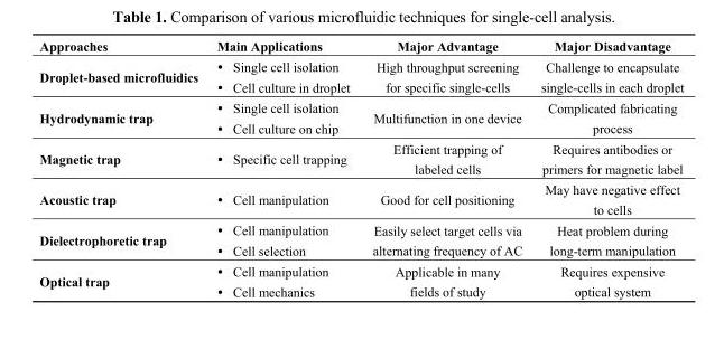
<table><thead><tr><td>Approaches</td><td>Main Applications</td><td>Major Advantage</td><td>Major Disadvantage</td></tr></thead><tbody><tr><td rowspan="2">Droplet-based microfluidics</td><td> Single cell isolation</td><td rowspan="2">High throughput screening for specific single-cells</td><td rowspan="2">Challenge to encapsulate single-cells in each droplet</td></tr><tr><td> Cell culture in droplet</td></tr><tr><td rowspan="2">Hydrodynamic trap</td><td> Single cell isolation</td><td rowspan="2">Multifunction in one device</td><td rowspan="2">Complicated fabricating process</td></tr><tr><td> Cell culture on chip</td></tr><tr><td>Magnetic trap</td><td> Specific cell trapping</td><td>Efficient trapping of labeled cells</td><td>Requires antibodies or primers for magnetic label</td></tr><tr><td>Acoustic trap</td><td> Cell manipulation</td><td>Good for cell positioning</td><td>May have negative effect to cells</td></tr><tr><td rowspan="2">Dielectrophoretic trap</td><td> Cell manipulation</td><td rowspan="2">Easily select target cells via alternating frequency of AC</td><td rowspan="2">Heat problem during long-term manipulation</td></tr><tr><td> Cell selection</td></tr><tr><td rowspan="2">Optical trap</td><td> Cell manipulation</td><td rowspan="2">Applicable in many fields of study</td><td rowspan="2">Requires expensive optical system</td></tr><tr><td> Cell mechanics</td></tr></tbody></table>